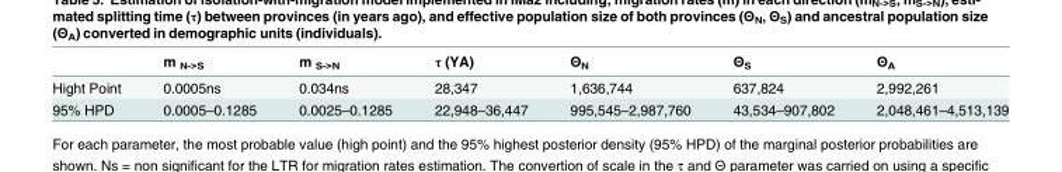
<table><thead><tr><td></td><td>m <sub>N-&gt;S</sub></td><td>m <sub>S-&gt;N</sub></td><td>τ (YA)</td><td>Θ<sub>N</sub></td><td>Θ<sub>S</sub></td><td>Θ<sub>A</sub></td></tr></thead><tbody><tr><td>Hight Point</td><td>0.0005ns</td><td>0.034ns</td><td>28,347</td><td>1,636,744</td><td>637,824</td><td>2,992,261</td></tr><tr><td>95% HPD</td><td>0.0005–0.1285</td><td>0.0025–0.1285</td><td>22,948–36,447</td><td>995,545–2,987,760</td><td>43,534–907,802</td><td>2,048,461–4,513,139</td></tr></tbody></table>